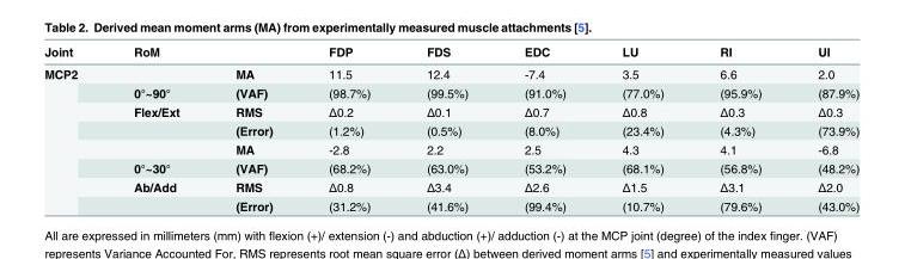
<table><thead><tr><td>Joint</td><td>RoM</td><td></td><td>FDP</td><td>FDS</td><td>EDC</td><td>LU</td><td>RI</td><td>UI</td></tr></thead><tbody><tr><td rowspan="8">MCP2</td><td></td><td>MA</td><td>11.5</td><td>12.4</td><td>-7.4</td><td>3.5</td><td>6.6</td><td>2.0</td></tr><tr><td>0°~90°</td><td>(VAF)</td><td>(98.7%)</td><td>(99.5%)</td><td>(91.0%)</td><td>(77.0%)</td><td>(95.9%)</td><td>(87.9%)</td></tr><tr><td>Flex/Ext</td><td>RMS</td><td>Δ0.2</td><td>Δ0.1</td><td>Δ0.7</td><td>Δ0.8</td><td>Δ0.3</td><td>Δ0.3</td></tr><tr><td></td><td>(Error)</td><td>(1.2%)</td><td>(0.5%)</td><td>(8.0%)</td><td>(23.4%)</td><td>(4.3%)</td><td>(73.9%)</td></tr><tr><td></td><td>MA</td><td>-2.8</td><td>2.2</td><td>2.5</td><td>4.3</td><td>4.1</td><td>-6.8</td></tr><tr><td>0°~30°</td><td>(VAF)</td><td>(68.2%)</td><td>(63.0%)</td><td>(53.2%)</td><td>(68.1%)</td><td>(56.8%)</td><td>(48.2%)</td></tr><tr><td>Ab/Add</td><td>RMS</td><td>Δ0.8</td><td>Δ3.4</td><td>Δ2.6</td><td>Δ1.5</td><td>Δ3.1</td><td>Δ2.0</td></tr><tr><td></td><td>(Error)</td><td>(31.2%)</td><td>(41.6%)</td><td>(99.4%)</td><td>(10.7%)</td><td>(79.6%)</td><td>(43.0%)</td></tr></tbody></table>